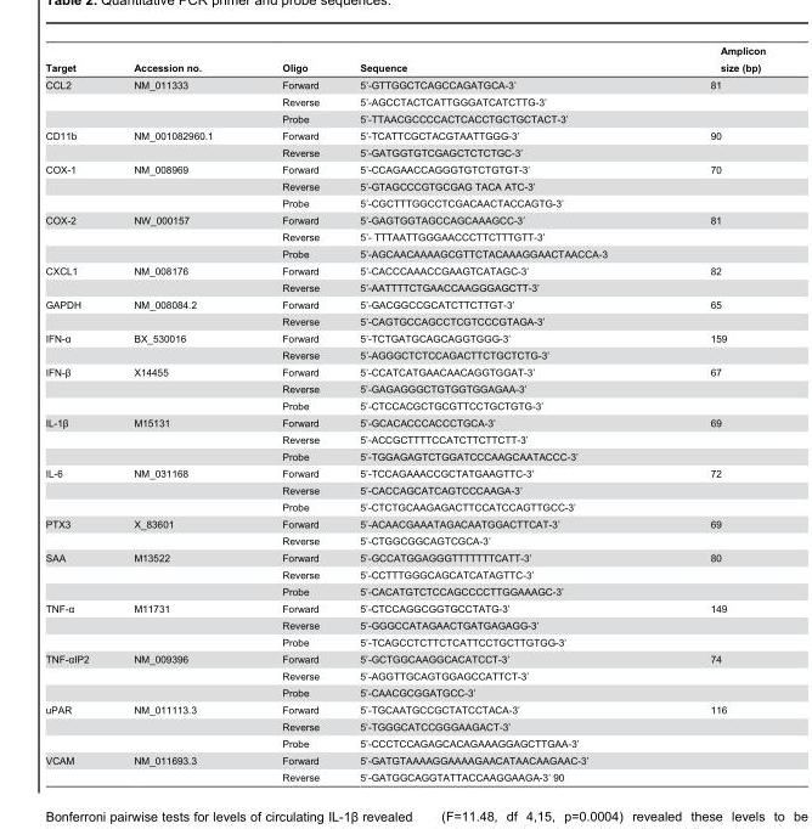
<table><thead><tr><td>Target</td><td>Accession no.</td><td>Oligo</td><td>Sequence</td><td>Amplicon size (bp)</td></tr></thead><tbody><tr><td rowspan="3">CCL2</td><td>NM_011333</td><td>Forward</td><td>5’-GTTGGCTCAGCCAGATGCA-3’</td><td>81</td></tr><tr><td></td><td>Reverse</td><td colspan="2">5’-AGCCTACTCATTGGGATCATCTTG-3’</td></tr><tr><td></td><td>Probe</td><td colspan="2">5’-TTAACGCCCCACTCACCTGCTGCTACT-3’</td></tr><tr><td rowspan="2">CD11b</td><td>NM_001082960.1</td><td>Forward</td><td>5’-TCATTCGCTACGTAATTGGG-3’</td><td>90</td></tr><tr><td></td><td>Reverse</td><td colspan="2">5’-GATGGTGTCGAGCTCTCTGC-3’</td></tr><tr><td rowspan="3">COX-1</td><td>NM_008969</td><td>Forward</td><td>5’-CCAGAACCAGGGTGTCTGTGT-3’</td><td>70</td></tr><tr><td></td><td>Reverse</td><td colspan="2">5’-GTAGCCCGTGCGAG TACA ATC-3’</td></tr><tr><td></td><td>Probe</td><td colspan="2">5’-CGCTTTGGCCTCGACAACTACCAGTG-3’</td></tr><tr><td rowspan="3">COX-2</td><td>NW_000157</td><td>Forward</td><td>5’-GAGTGGTAGCCAGCAAAGCC-3’</td><td>81</td></tr><tr><td></td><td>Reverse</td><td colspan="2">5’- TTTAATTGGGAACCCTTCTTTGTT-3’</td></tr><tr><td></td><td>Probe</td><td colspan="2">5’-AGCAACAAAAGCGTTCTACAAAGGAACTAACCA-3</td></tr><tr><td rowspan="2">CXCL1</td><td>NM_008176</td><td>Forward</td><td>5’-CACCCAAACCGAAGTCATAGC-3’</td><td>82</td></tr><tr><td></td><td>Reverse</td><td colspan="2">5’-AATTTTCTGAACCAAGGGAGCTT-3’</td></tr><tr><td rowspan="2">GAPDH</td><td>NM_008084.2</td><td>Forward</td><td>5’-GACGGCCGCATCTTCTTGT-3’</td><td>65</td></tr><tr><td></td><td>Reverse</td><td colspan="2">5’-CAGTGCCAGCCTCGTCCCGTAGA-3’</td></tr><tr><td rowspan="2">IFN-α</td><td>BX_530016</td><td>Forward</td><td>5’-TCTGATGCAGCAGGTGGG-3’</td><td>159</td></tr><tr><td></td><td>Reverse</td><td colspan="2">5’-AGGGCTCTCCAGACTTCTGCTCTG-3’</td></tr><tr><td rowspan="3">IFN-β</td><td>X14455</td><td>Forward</td><td>5’-CCATCATGAACAACAGGTGGAT-3’</td><td>67</td></tr><tr><td></td><td>Reverse</td><td colspan="2">5’-GAGAGGGCTGTGGTGGAGAA-3’</td></tr><tr><td></td><td>Probe</td><td colspan="2">5’-CTCCACGCTGCGTTCCTGCTGTG-3’</td></tr><tr><td rowspan="3">IL-1β</td><td>M15131</td><td>Forward</td><td>5’-GCACACCCACCCTGCA-3’</td><td>69</td></tr><tr><td></td><td>Reverse</td><td colspan="2">5’-ACCGCTTTTCCATCTTCTTCTT-3’</td></tr><tr><td></td><td>Probe</td><td colspan="2">5’-TGGAGAGTCTGGATCCCAAGCAATACCC-3’</td></tr><tr><td rowspan="3">IL-6</td><td>NM_031168</td><td>Forward</td><td>5’-TCCAGAAACCGCTATGAAGTTC-3’</td><td>72</td></tr><tr><td></td><td>Reverse</td><td colspan="2">5’-CACCAGCATCAGTCCCAAGA-3’</td></tr><tr><td></td><td>Probe</td><td colspan="2">5’-CTCTGCAAGAGACTTCCATCCAGTTGCC-3’</td></tr><tr><td rowspan="2">PTX3</td><td>X_83601</td><td>Forward</td><td>5’-ACAACGAAATAGACAATGGACTTCAT-3’</td><td>69</td></tr><tr><td></td><td>Reverse</td><td>5’-CTGGCGGCAGTCGCA-3’</td><td></td></tr><tr><td rowspan="3">SAA</td><td>M13522</td><td>Forward</td><td>5’-GCCATGGAGGGTTTTTTTCATT-3’</td><td>80</td></tr><tr><td></td><td>Reverse</td><td colspan="2">5’-CCTTTGGGCAGCATCATAGTTC-3’</td></tr><tr><td></td><td>Probe</td><td colspan="2">5’-CACATGTCTCCAGCCCCTTGGAAAGC-3’</td></tr><tr><td rowspan="3">TNF-α</td><td>M11731</td><td>Forward</td><td>5’-CTCCAGGCGGTGCCTATG-3’</td><td>149</td></tr><tr><td></td><td>Reverse</td><td colspan="2">5’-GGGCCATAGAACTGATGAGAGG-3’</td></tr><tr><td></td><td>Probe</td><td colspan="2">5’-TCAGCCTCTTCTCATTCCTGCTTGTGG-3’</td></tr><tr><td rowspan="3">TNF-αIP2</td><td>NM_009396</td><td>Forward</td><td>5’-GCTGGCAAGGCACATCCT-3’</td><td>74</td></tr><tr><td></td><td>Reverse</td><td colspan="2">5’-AGGTTGCAGTGGAGCCATTCT-3’</td></tr><tr><td></td><td>Probe</td><td colspan="2">5’-CAACGCGGATGCC-3’</td></tr><tr><td rowspan="3">uPAR</td><td>NM_011113.3</td><td>Forward</td><td>5’-TGCAATGCCGCTATCCTACA-3’</td><td>116</td></tr><tr><td></td><td>Reverse</td><td colspan="2">5’-TGGGCATCCGGGAAGACT-3’</td></tr><tr><td></td><td>Probe</td><td colspan="2">5’-CCCTCCAGAGCACAGAAAGGAGCTTGAA-3’</td></tr><tr><td rowspan="2">VCAM</td><td>NM_011693.3</td><td>Forward</td><td colspan="2">5’-GATGTAAAAGGAAAAGAACATAACAAGAAC-3’</td></tr><tr><td></td><td>Reverse</td><td colspan="2">5’-GATGGCAGGTATTACCAAGGAAGA-3’ 90</td></tr></tbody></table>